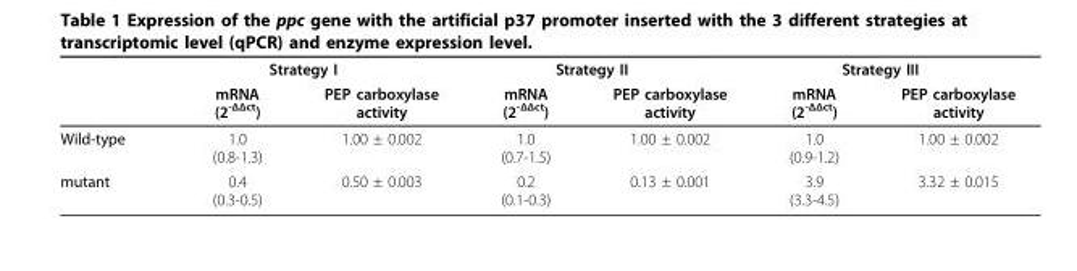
<table><thead><tr><td rowspan="2"></td><td colspan="2">Strategy I</td><td colspan="2">Strategy II</td><td colspan="2">Strategy III</td></tr><tr><td>mRNA (2<sup>-ΔΔct</sup>)</td><td>PEP carboxylase activity</td><td>mRNA (2<sup>-ΔΔct</sup>)</td><td>PEP carboxylase activity</td><td>mRNA (2<sup>-ΔΔct</sup>)</td><td>PEP carboxylase activity</td></tr></thead><tbody><tr><td>Wild-type</td><td>1.0 (0.8-1.3)</td><td>1.00 ± 0.002</td><td>1.0 (0.7-1.5)</td><td>1.00 ± 0.002</td><td>1.0 (0.9-1.2)</td><td>1.00 ± 0.002</td></tr><tr><td>mutant</td><td>0.4 (0.3-0.5)</td><td>0.50 ± 0.003</td><td>0.2 (0.1-0.3)</td><td>0.13 ± 0.001</td><td>3.9 (3.3-4.5)</td><td>3.32 ± 0.015</td></tr></tbody></table>